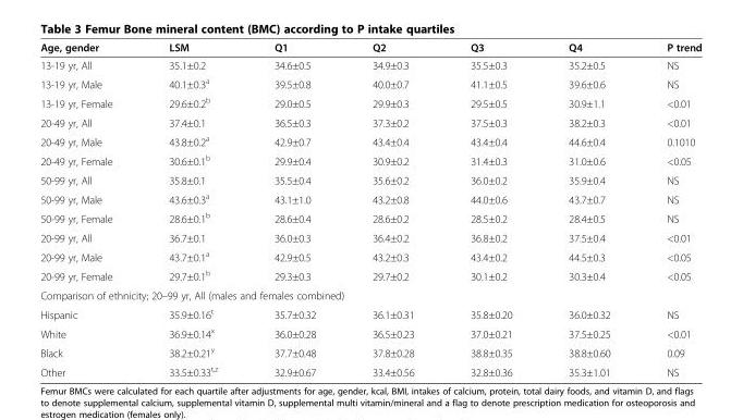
<table><thead><tr><td>Age, gender</td><td>LSM</td><td>Q1</td><td>Q2</td><td>Q3</td><td>Q4</td><td>P trend</td></tr></thead><tbody><tr><td>13-19 yr, All</td><td>35.1±0.2</td><td>34.6±0.5</td><td>34.9±0.3</td><td>35.5±0.3</td><td>35.2±0.5</td><td>NS</td></tr><tr><td>13-19 yr, Male</td><td>40.1±0.3<sup>a</sup></td><td>39.5±0.8</td><td>40.0±0.7</td><td>41.1±0.5</td><td>39.6±0.6</td><td>NS</td></tr><tr><td>13-19 yr, Female</td><td>29.6±0.2<sup>b</sup></td><td>29.0±0.5</td><td>29.9±0.3</td><td>29.5±0.5</td><td>30.9±1.1</td><td>&lt;0.01</td></tr><tr><td>20-49 yr, All</td><td>37.4±0.1</td><td>36.5±0.3</td><td>37.3±0.2</td><td>37.5±0.3</td><td>38.2±0.3</td><td>&lt;0.01</td></tr><tr><td>20-49 yr, Male</td><td>43.8±0.2<sup>a</sup></td><td>42.9±0.7</td><td>43.4±0.4</td><td>43.4±0.4</td><td>44.6±0.4</td><td>0.1010</td></tr><tr><td>20-49 yr, Female</td><td>30.6±0.1<sup>b</sup></td><td>29.9±0.4</td><td>30.9±0.2</td><td>31.4±0.3</td><td>31.0±0.6</td><td>&lt;0.05</td></tr><tr><td>50-99 yr, All</td><td>35.8±0.1</td><td>35.5±0.4</td><td>35.6±0.2</td><td>36.0±0.2</td><td>35.9±0.4</td><td>NS</td></tr><tr><td>50-99 yr, Male</td><td>43.6±0.3<sup>a</sup></td><td>43.1±1.0</td><td>43.2±0.8</td><td>44.0±0.6</td><td>43.7±0.7</td><td>NS</td></tr><tr><td>50-99 yr, Female</td><td>28.6±0.1<sup>b</sup></td><td>28.6±0.4</td><td>28.6±0.2</td><td>28.5±0.2</td><td>28.4±0.5</td><td>NS</td></tr><tr><td>20-99 yr, All</td><td>36.7±0.1</td><td>36.0±0.3</td><td>36.4±0.2</td><td>36.8±0.2</td><td>37.5±0.4</td><td>&lt;0.01</td></tr><tr><td>20-99 yr, Male</td><td>43.7±0.1<sup>a</sup></td><td>42.9±0.5</td><td>43.2±0.3</td><td>43.4±0.2</td><td>44.5±0.3</td><td>&lt;0.05</td></tr><tr><td>20-99 yr, Female</td><td>29.7±0.1<sup>b</sup></td><td>29.3±0.3</td><td>29.7±0.2</td><td>30.1±0.2</td><td>30.3±0.4</td><td>&lt;0.05</td></tr><tr><td colspan="7">Comparison of ethnicity; 20–99 yr, All (males and females combined)</td></tr><tr><td>Hispanic</td><td>35.9±0.16<sup>t</sup></td><td>35.7±0.32</td><td>36.1±0.31</td><td>35.8±0.20</td><td>36.0±0.32</td><td>NS</td></tr><tr><td>White</td><td>36.9±0.14<sup>x</sup></td><td>36.0±0.28</td><td>36.5±0.23</td><td>37.0±0.21</td><td>37.5±0.25</td><td>&lt;0.01</td></tr><tr><td>Black</td><td>38.2±0.21<sup>y</sup></td><td>37.7±0.48</td><td>37.8±0.28</td><td>38.8±0.35</td><td>38.8±0.60</td><td>0.09</td></tr><tr><td>Other</td><td>33.5±0.33<sup>t,z</sup></td><td>32.9±0.67</td><td>33.4±0.56</td><td>32.8±0.36</td><td>35.3±1.01</td><td>NS</td></tr></tbody></table>